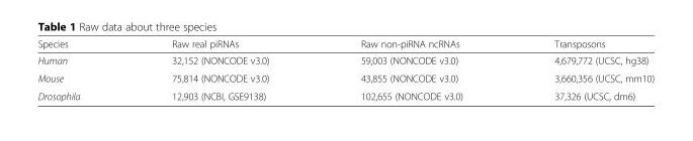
<table><thead><tr><td>Species</td><td>Raw real piRNAs</td><td>Raw non-piRNA ncRNAs</td><td>Transposons</td></tr></thead><tbody><tr><td>Human</td><td>32,152 (NONCODE v3.0)</td><td>59,003 (NONCODE v3.0)</td><td>4,679,772 (UCSC, hg38)</td></tr><tr><td>Mouse</td><td>75,814 (NONCODE v3.0)</td><td>43,855 (NONCODE v3.0)</td><td>3,660,356 (UCSC, mm10)</td></tr><tr><td>Drosophila</td><td>12,903 (NCBI, GSE9138)</td><td>102,655 (NONCODE v3.0)</td><td>37,326 (UCSC, dm6)</td></tr></tbody></table>